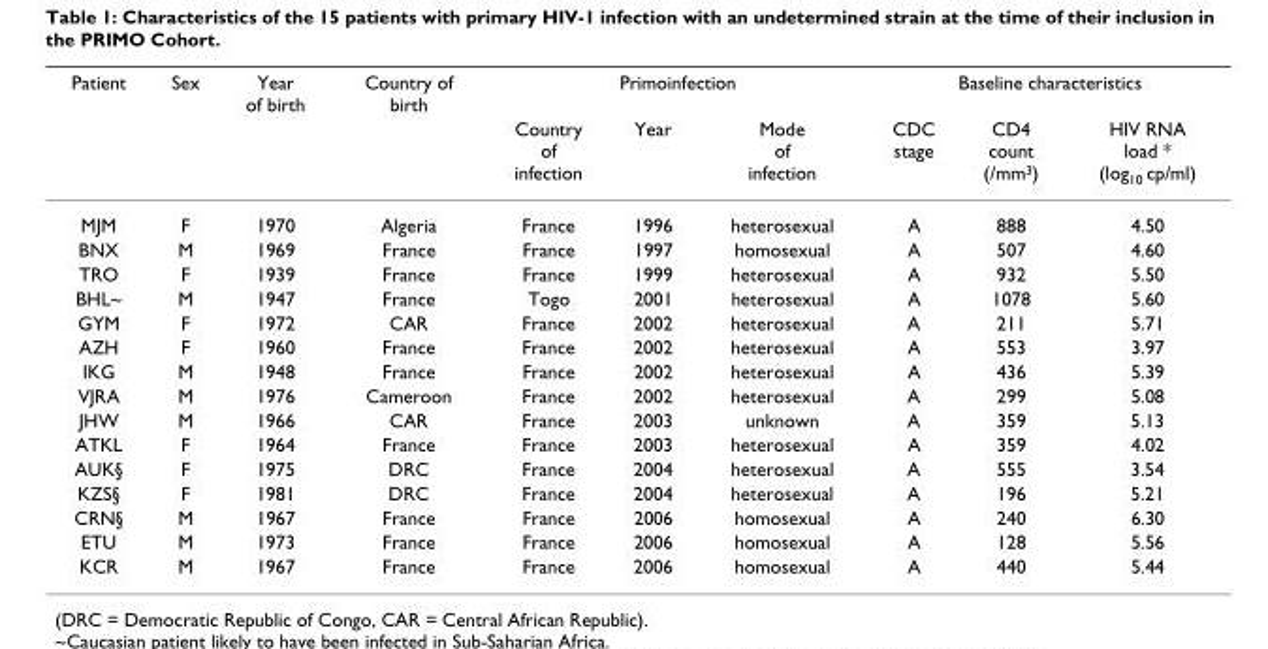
<table><thead><tr><td rowspan="2">Patient</td><td rowspan="2">Sex</td><td rowspan="2">Year of birth</td><td rowspan="2">Country of birth</td><td colspan="3">Primoinfection</td><td colspan="3">Baseline characteristics</td></tr><tr><td>Country of infection</td><td>Year</td><td>Mode of infection</td><td>CDC stage</td><td>CD4 count (/mm<sup>3</sup>)</td><td>HIV RNA load * (log<sub>10</sub> cp/ml)</td></tr></thead><tbody><tr><td>MJM</td><td>F</td><td>1970</td><td>Algeria</td><td>France</td><td>1996</td><td>heterosexual</td><td>A</td><td>888</td><td>4.50</td></tr><tr><td>BNX</td><td>M</td><td>1969</td><td>France</td><td>France</td><td>1997</td><td>homosexual</td><td>A</td><td>507</td><td>4.60</td></tr><tr><td>TRO</td><td>F</td><td>1939</td><td>France</td><td>France</td><td>1999</td><td>heterosexual</td><td>A</td><td>932</td><td>5.50</td></tr><tr><td>BHL~</td><td>M</td><td>1947</td><td>France</td><td>Togo</td><td>2001</td><td>heterosexual</td><td>A</td><td>1078</td><td>5.60</td></tr><tr><td>GYM</td><td>F</td><td>1972</td><td>CAR</td><td>France</td><td>2002</td><td>heterosexual</td><td>A</td><td>211</td><td>5.71</td></tr><tr><td>AZH</td><td>F</td><td>1960</td><td>France</td><td>France</td><td>2002</td><td>heterosexual</td><td>A</td><td>553</td><td>3.97</td></tr><tr><td>IKG</td><td>M</td><td>1948</td><td>France</td><td>France</td><td>2002</td><td>heterosexual</td><td>A</td><td>436</td><td>5.39</td></tr><tr><td>VJRA</td><td>M</td><td>1976</td><td>Cameroon</td><td>France</td><td>2002</td><td>heterosexual</td><td>A</td><td>299</td><td>5.08</td></tr><tr><td>JHW</td><td>M</td><td>1966</td><td>CAR</td><td>France</td><td>2003</td><td>unknown</td><td>A</td><td>359</td><td>5.13</td></tr><tr><td>ATKL</td><td>F</td><td>1964</td><td>France</td><td>France</td><td>2003</td><td>heterosexual</td><td>A</td><td>359</td><td>4.02</td></tr><tr><td>AUK§</td><td>F</td><td>1975</td><td>DRC</td><td>France</td><td>2004</td><td>heterosexual</td><td>A</td><td>555</td><td>3.54</td></tr><tr><td>KZS§</td><td>F</td><td>1981</td><td>DRC</td><td>France</td><td>2004</td><td>heterosexual</td><td>A</td><td>196</td><td>5.21</td></tr><tr><td>CRN§</td><td>M</td><td>1967</td><td>France</td><td>France</td><td>2006</td><td>homosexual</td><td>A</td><td>240</td><td>6.30</td></tr><tr><td>ETU</td><td>M</td><td>1973</td><td>France</td><td>France</td><td>2006</td><td>homosexual</td><td>A</td><td>128</td><td>5.56</td></tr><tr><td>KCR</td><td>M</td><td>1967</td><td>France</td><td>France</td><td>2006</td><td>homosexual</td><td>A</td><td>440</td><td>5.44</td></tr></tbody></table>